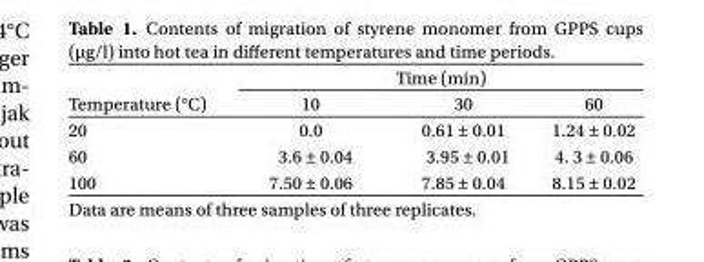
<table><thead><tr><td rowspan="2">Temperature (°C)</td><td colspan="3">Time (min)</td></tr><tr><td>10</td><td>30</td><td>60</td></tr></thead><tbody><tr><td>20</td><td>0.0</td><td>0.61 ± 0.01</td><td>1.24 ± 0.02</td></tr><tr><td>60</td><td>3.6 ± 0.04</td><td>3.95 ± 0.01</td><td>4. 3 ± 0.06</td></tr><tr><td>100</td><td>7.50 ± 0.06</td><td>7.85 ± 0.04</td><td>8.15 ± 0.02</td></tr></tbody></table>